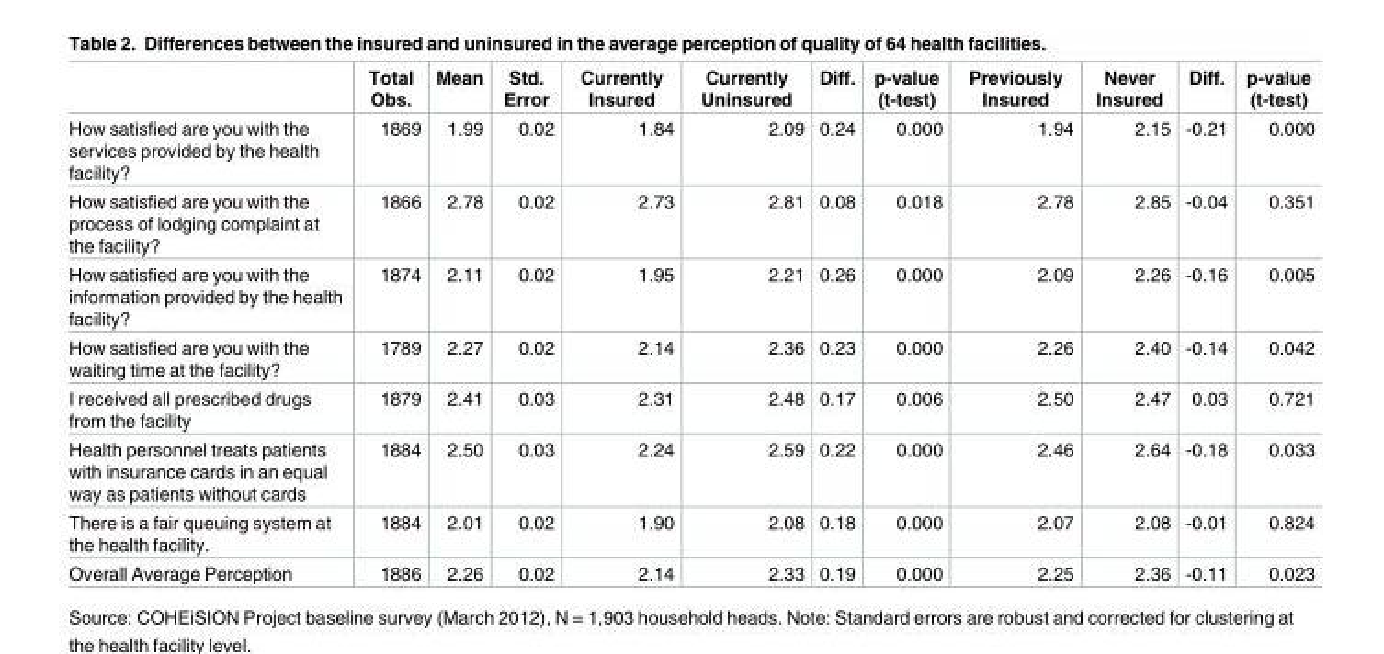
<table><thead><tr><td></td><td>Total Obs.</td><td>Mean</td><td>Std. Error</td><td>Currently Insured</td><td>Currently Uninsured</td><td>Diff.</td><td>p-value (t-test)</td><td>Previously Insured</td><td>Never Insured</td><td>Diff.</td><td>p-value (t-test)</td></tr></thead><tbody><tr><td>How satisfied are you with the services provided by the health facility?</td><td>1869</td><td>1.99</td><td>0.02</td><td>1.84</td><td>2.09</td><td>0.24</td><td>0.000</td><td>1.94</td><td>2.15</td><td>-0.21</td><td>0.000</td></tr><tr><td>How satisfied are you with the process of lodging complaint at the facility?</td><td>1866</td><td>2.78</td><td>0.02</td><td>2.73</td><td>2.81</td><td>0.08</td><td>0.018</td><td>2.78</td><td>2.85</td><td>-0.04</td><td>0.351</td></tr><tr><td>How satisfied are you with the information provided by the health facility?</td><td>1874</td><td>2.11</td><td>0.02</td><td>1.95</td><td>2.21</td><td>0.26</td><td>0.000</td><td>2.09</td><td>2.26</td><td>-0.16</td><td>0.005</td></tr><tr><td>How satisfied are you with the waiting time at the facility?</td><td>1789</td><td>2.27</td><td>0.02</td><td>2.14</td><td>2.36</td><td>0.23</td><td>0.000</td><td>2.26</td><td>2.40</td><td>-0.14</td><td>0.042</td></tr><tr><td>I received all prescribed drugs from the facility</td><td>1879</td><td>2.41</td><td>0.03</td><td>2.31</td><td>2.48</td><td>0.17</td><td>0.006</td><td>2.50</td><td>2.47</td><td>0.03</td><td>0.721</td></tr><tr><td>Health personnel treats patients with insurance cards in an equal way as patients without cards</td><td>1884</td><td>2.50</td><td>0.03</td><td>2.24</td><td>2.59</td><td>0.22</td><td>0.000</td><td>2.46</td><td>2.64</td><td>-0.18</td><td>0.033</td></tr><tr><td>There is a fair queuing system at the health facility.</td><td>1884</td><td>2.01</td><td>0.02</td><td>1.90</td><td>2.08</td><td>0.18</td><td>0.000</td><td>2.07</td><td>2.08</td><td>-0.01</td><td>0.824</td></tr><tr><td>Overall Average Perception</td><td>1886</td><td>2.26</td><td>0.02</td><td>2.14</td><td>2.33</td><td>0.19</td><td>0.000</td><td>2.25</td><td>2.36</td><td>-0.11</td><td>0.023</td></tr></tbody></table>